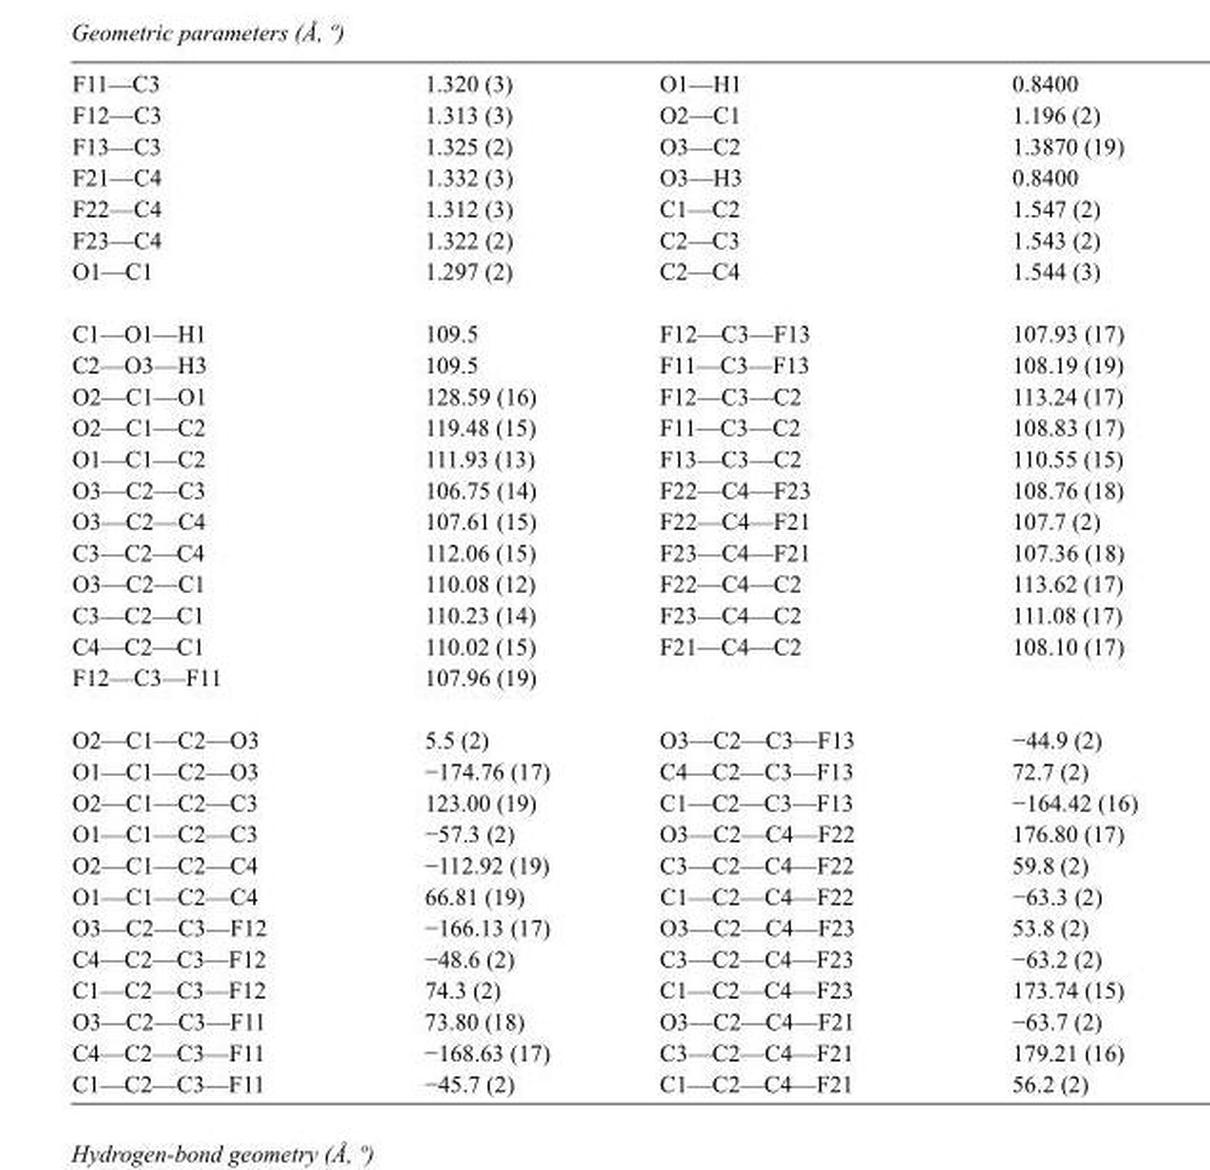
<table><tbody><tr><td>F11—C3</td><td>1.320 (3)</td><td>O1—H1</td><td>0.8400</td></tr><tr><td>F12—C3</td><td>1.313 (3)</td><td>O2—C1</td><td>1.196 (2)</td></tr><tr><td>F13—C3</td><td>1.325 (2)</td><td>O3—C2</td><td>1.3870 (19)</td></tr><tr><td>F21—C4</td><td>1.332 (3)</td><td>O3—H3</td><td>0.8400</td></tr><tr><td>F22—C4</td><td>1.312 (3)</td><td>C1—C2</td><td>1.547 (2)</td></tr><tr><td>F23—C4</td><td>1.322 (2)</td><td>C2—C3</td><td>1.543 (2)</td></tr><tr><td>O1—C1</td><td>1.297 (2)</td><td>C2—C4</td><td>1.544 (3)</td></tr><tr><td>C1—O1—H1</td><td>109.5</td><td>F12—C3—F13</td><td>107.93 (17)</td></tr><tr><td>C2—O3—H3</td><td>109.5</td><td>F11—C3—F13</td><td>108.19 (19)</td></tr><tr><td>O2—C1—O1</td><td>128.59 (16)</td><td>F12—C3—C2</td><td>113.24 (17)</td></tr><tr><td>O2—C1—C2</td><td>119.48 (15)</td><td>F11—C3—C2</td><td>108.83 (17)</td></tr><tr><td>O1—C1—C2</td><td>111.93 (13)</td><td>F13—C3—C2</td><td>110.55 (15)</td></tr><tr><td>O3—C2—C3</td><td>106.75 (14)</td><td>F22—C4—F23</td><td>108.76 (18)</td></tr><tr><td>O3—C2—C4</td><td>107.61 (15)</td><td>F22—C4—F21</td><td>107.7 (2)</td></tr><tr><td>C3—C2—C4</td><td>112.06 (15)</td><td>F23—C4—F21</td><td>107.36 (18)</td></tr><tr><td>O3—C2—C1</td><td>110.08 (12)</td><td>F22—C4—C2</td><td>113.62 (17)</td></tr><tr><td>C3—C2—C1</td><td>110.23 (14)</td><td>F23—C4—C2</td><td>111.08 (17)</td></tr><tr><td>C4—C2—C1</td><td>110.02 (15)</td><td>F21—C4—C2</td><td>108.10 (17)</td></tr><tr><td>F12—C3—F11</td><td>107.96 (19)</td><td></td><td></td></tr><tr><td>O2—C1—C2—O3</td><td>5.5 (2)</td><td>O3—C2—C3—F13</td><td>−44.9 (2)</td></tr><tr><td>O1—C1—C2—O3</td><td>−174.76 (17)</td><td>C4—C2—C3—F13</td><td>72.7 (2)</td></tr><tr><td>O2—C1—C2—C3</td><td>123.00 (19)</td><td>C1—C2—C3—F13</td><td>−164.42 (16)</td></tr><tr><td>O1—C1—C2—C3</td><td>−57.3 (2)</td><td>O3—C2—C4—F22</td><td>176.80 (17)</td></tr><tr><td>O2—C1—C2—C4</td><td>−112.92 (19)</td><td>C3—C2—C4—F22</td><td>59.8 (2)</td></tr><tr><td>O1—C1—C2—C4</td><td>66.81 (19)</td><td>C1—C2—C4—F22</td><td>−63.3 (2)</td></tr><tr><td>O3—C2—C3—F12</td><td>−166.13 (17)</td><td>O3—C2—C4—F23</td><td>53.8 (2)</td></tr><tr><td>C4—C2—C3—F12</td><td>−48.6 (2)</td><td>C3—C2—C4—F23</td><td>−63.2 (2)</td></tr><tr><td>C1—C2—C3—F12</td><td>74.3 (2)</td><td>C1—C2—C4—F23</td><td>173.74 (15)</td></tr><tr><td>O3—C2—C3—F11</td><td>73.80 (18)</td><td>O3—C2—C4—F21</td><td>−63.7 (2)</td></tr><tr><td>C4—C2—C3—F11</td><td>−168.63 (17)</td><td>C3—C2—C4—F21</td><td>179.21 (16)</td></tr><tr><td>C1—C2—C3—F11</td><td>−45.7 (2)</td><td>C1—C2—C4—F21</td><td>56.2 (2)</td></tr></tbody></table>